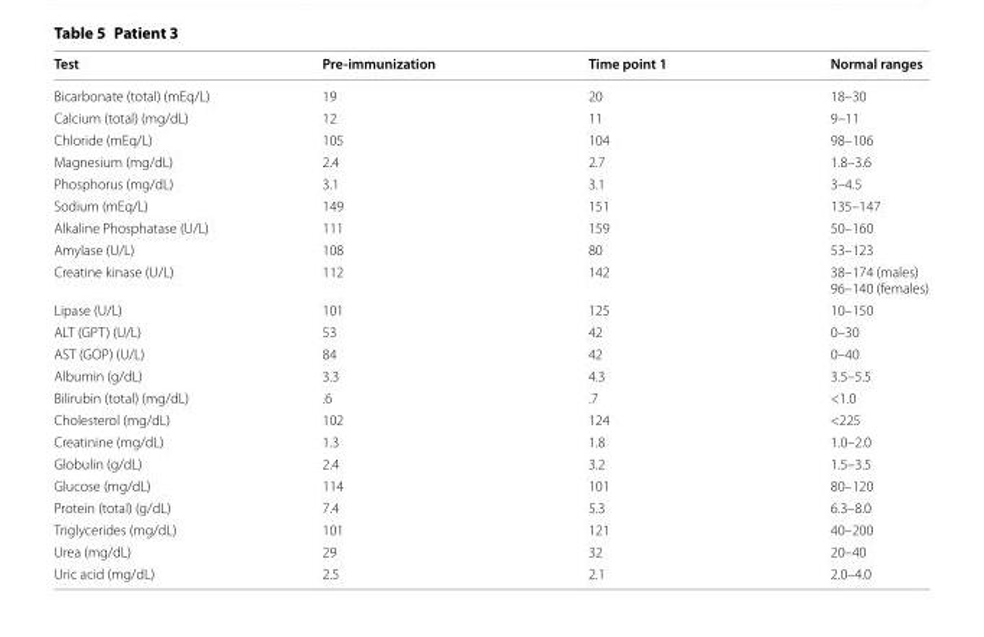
<table><thead><tr><td>Test</td><td>Pre-immunization</td><td>Time point 1</td><td>Normal ranges</td></tr></thead><tbody><tr><td>Bicarbonate (total) (mEq/L)</td><td>19</td><td>20</td><td>18–30</td></tr><tr><td>Calcium (total) (mg/dL)</td><td>12</td><td>11</td><td>9–11</td></tr><tr><td>Chloride (mEq/L)</td><td>105</td><td>104</td><td>98–106</td></tr><tr><td>Magnesium (mg/dL)</td><td>2.4</td><td>2.7</td><td>1.8–3.6</td></tr><tr><td>Phosphorus (mg/dL)</td><td>3.1</td><td>3.1</td><td>3–4.5</td></tr><tr><td>Sodium (mEq/L)</td><td>149</td><td>151</td><td>135–147</td></tr><tr><td>Alkaline Phosphatase (U/L)</td><td>111</td><td>159</td><td>50–160</td></tr><tr><td>Amylase (U/L)</td><td>108</td><td>80</td><td>53–123</td></tr><tr><td>Creatine kinase (U/L)</td><td>112</td><td>142</td><td>38–174 (males) 96–140 (females)</td></tr><tr><td>Lipase (U/L)</td><td>101</td><td>125</td><td>10–150</td></tr><tr><td>ALT (GPT) (U/L)</td><td>53</td><td>42</td><td>0–30</td></tr><tr><td>AST (GOP) (U/L)</td><td>84</td><td>42</td><td>0–40</td></tr><tr><td>Albumin (g/dL)</td><td>3.3</td><td>4.3</td><td>3.5–5.5</td></tr><tr><td>Bilirubin (total) (mg/dL)</td><td>.6</td><td>.7</td><td>&lt;1.0</td></tr><tr><td>Cholesterol (mg/dL)</td><td>102</td><td>124</td><td>&lt;225</td></tr><tr><td>Creatinine (mg/dL)</td><td>1.3</td><td>1.8</td><td>1.0–2.0</td></tr><tr><td>Globulin (g/dL)</td><td>2.4</td><td>3.2</td><td>1.5–3.5</td></tr><tr><td>Glucose (mg/dL)</td><td>114</td><td>101</td><td>80–120</td></tr><tr><td>Protein (total) (g/dL)</td><td>7.4</td><td>5.3</td><td>6.3–8.0</td></tr><tr><td>Triglycerides (mg/dL)</td><td>101</td><td>121</td><td>40–200</td></tr><tr><td>Urea (mg/dL)</td><td>29</td><td>32</td><td>20–40</td></tr><tr><td>Uric acid (mg/dL)</td><td>2.5</td><td>2.1</td><td>2.0–4.0</td></tr></tbody></table>